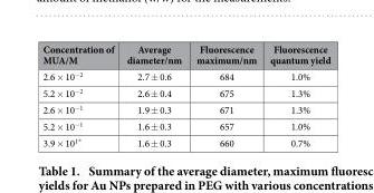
<table><thead><tr><td>Concentration of MUA/M</td><td>Average diameter/nm</td><td>Fluorescence maximum/nm</td><td>Fluorescence quantum yield</td></tr></thead><tbody><tr><td>2.6 × 10<sup>−2</sup></td><td>2.7 ± 0.6</td><td>684</td><td>1.0%</td></tr><tr><td>5.2 × 10<sup>−2</sup></td><td>2.6 ± 0.4</td><td>675</td><td>1.3%</td></tr><tr><td>2.6 × 10<sup>−1</sup></td><td>1.9 ± 0.3</td><td>671</td><td>1.3%</td></tr><tr><td>5.2 × 10<sup>−1</sup></td><td>1.6 ± 0.3</td><td>657</td><td>1.0%</td></tr><tr><td>3.9 × 10<sup>1</sup>*</td><td>1.6 ± 0.3</td><td>660</td><td>0.7%</td></tr></tbody></table>